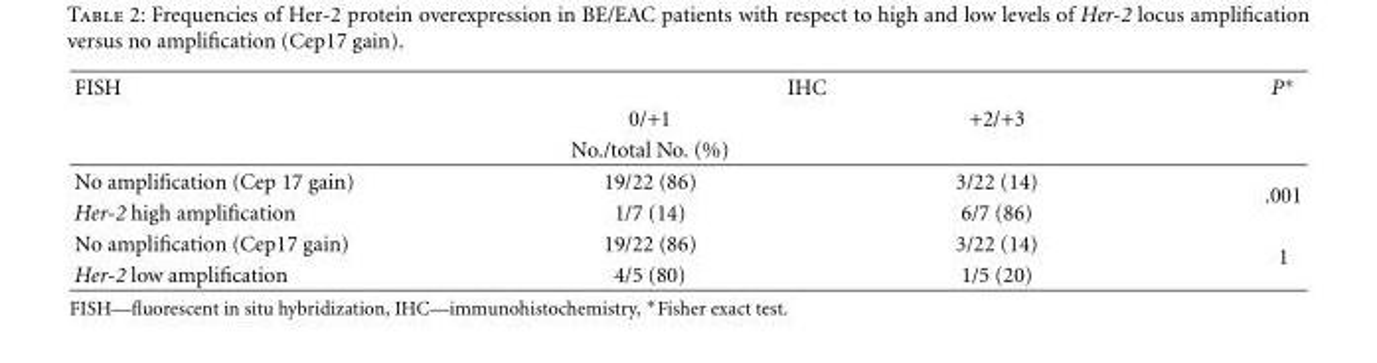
<table><thead><tr><td rowspan="3">FISH</td><td colspan="2">IHC</td><td rowspan="3">P∗</td></tr><tr><td rowspan="2">0/+1 No./total No. (%)</td><td rowspan="2">+2/+3</td></tr><tr></tr></thead><tbody><tr><td>No amplification (Cep 17 gain)</td><td>19/22 (86)</td><td>3/22 (14)</td><td rowspan="2">.001</td></tr><tr><td>Her-2 high amplification</td><td>1/7 (14)</td><td>6/7 (86)</td></tr><tr><td>No amplification (Cep17 gain)</td><td>19/22 (86)</td><td>3/22 (14)</td><td rowspan="2">1</td></tr><tr><td>Her-2 low amplification</td><td>4/5 (80)</td><td>1/5 (20)</td></tr></tbody></table>